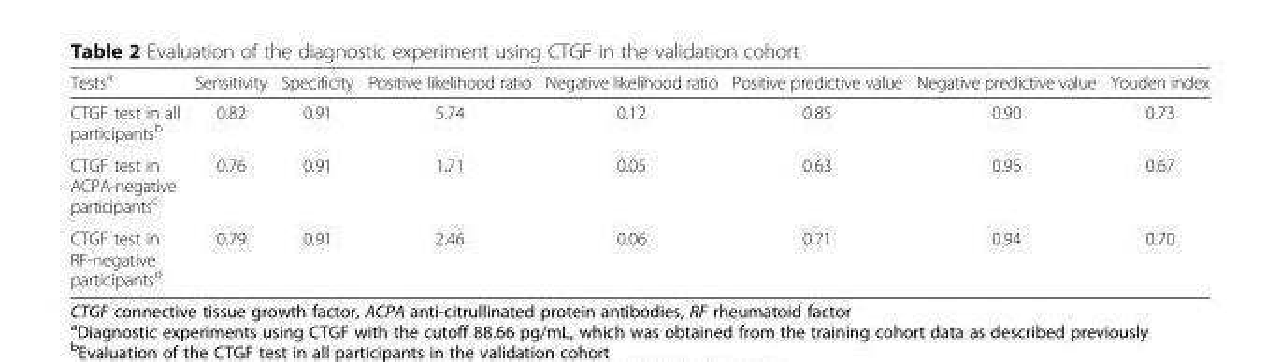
<table><thead><tr><td>Tests<sup>a</sup></td><td>Sensitivity</td><td>Specificity</td><td>Positive likelihood ratio</td><td>Negative likelihood ratio</td><td>Positive predictive value</td><td>Negative predictive value</td><td>Youden index</td></tr></thead><tbody><tr><td>CTGF test in all participants<sup>b</sup></td><td>0.82</td><td>0.91</td><td>5.74</td><td>0.12</td><td>0.85</td><td>0.90</td><td>0.73</td></tr><tr><td>CTGF test in ACPA-negative participants<sup>c</sup></td><td>0.76</td><td>0.91</td><td>1.71</td><td>0.05</td><td>0.63</td><td>0.95</td><td>0.67</td></tr><tr><td>CTGF test in RF-negative participants<sup>d</sup></td><td>0.79</td><td>0.91</td><td>2.46</td><td>0.06</td><td>0.71</td><td>0.94</td><td>0.70</td></tr></tbody></table>